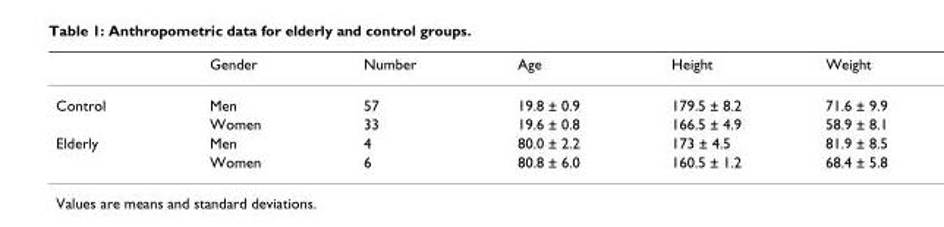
<table><thead><tr><td></td><td>Gender</td><td>Number</td><td>Age</td><td>Height</td><td>Weight</td></tr></thead><tbody><tr><td rowspan="2">Control</td><td>Men</td><td>57</td><td>19.8 ± 0.9</td><td>179.5 ± 8.2</td><td>71.6 ± 9.9</td></tr><tr><td>Women</td><td>33</td><td>19.6 ± 0.8</td><td>166.5 ± 4.9</td><td>58.9 ± 8.1</td></tr><tr><td rowspan="2">Elderly</td><td>Men</td><td>4</td><td>80.0 ± 2.2</td><td>173 ± 4.5</td><td>81.9 ± 8.5</td></tr><tr><td>Women</td><td>6</td><td>80.8 ± 6.0</td><td>160.5 ± 1.2</td><td>68.4 ± 5.8</td></tr></tbody></table>